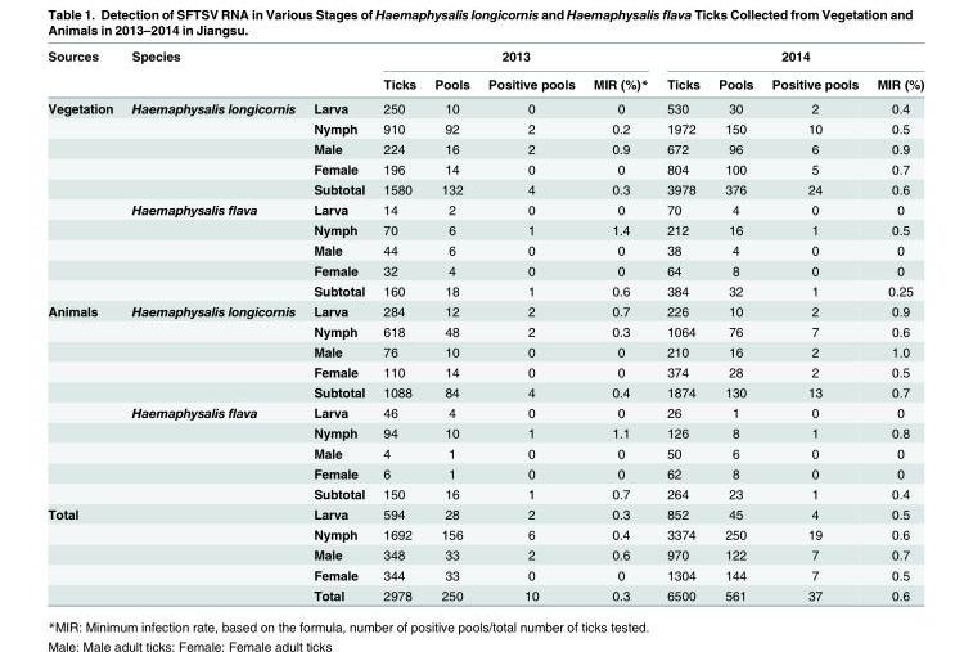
<table><thead><tr><td rowspan="2">Sources</td><td colspan="2">Species</td><td colspan="4">2013</td><td colspan="4">2014</td></tr><tr><td></td><td></td><td>Ticks</td><td>Pools</td><td>Positive pools</td><td>MIR (%)*</td><td>Ticks</td><td>Pools</td><td>Positive pools</td><td>MIR (%)</td></tr></thead><tbody><tr><td rowspan="10">Vegetation</td><td>Haemaphysalis longicornis</td><td>Larva</td><td>250</td><td>10</td><td>0</td><td>0</td><td>530</td><td>30</td><td>2</td><td>0.4</td></tr><tr><td></td><td>Nymph</td><td>910</td><td>92</td><td>2</td><td>0.2</td><td>1972</td><td>150</td><td>10</td><td>0.5</td></tr><tr><td></td><td>Male</td><td>224</td><td>16</td><td>2</td><td>0.9</td><td>672</td><td>96</td><td>6</td><td>0.9</td></tr><tr><td></td><td>Female</td><td>196</td><td>14</td><td>0</td><td>0</td><td>804</td><td>100</td><td>5</td><td>0.7</td></tr><tr><td></td><td>Subtotal</td><td>1580</td><td>132</td><td>4</td><td>0.3</td><td>3978</td><td>376</td><td>24</td><td>0.6</td></tr><tr><td>Haemaphysalis flava</td><td>Larva</td><td>14</td><td>2</td><td>0</td><td>0</td><td>70</td><td>4</td><td>0</td><td>0</td></tr><tr><td></td><td>Nymph</td><td>70</td><td>6</td><td>1</td><td>1.4</td><td>212</td><td>16</td><td>1</td><td>0.5</td></tr><tr><td></td><td>Male</td><td>44</td><td>6</td><td>0</td><td>0</td><td>38</td><td>4</td><td>0</td><td>0</td></tr><tr><td></td><td>Female</td><td>32</td><td>4</td><td>0</td><td>0</td><td>64</td><td>8</td><td>0</td><td>0</td></tr><tr><td></td><td>Subtotal</td><td>160</td><td>18</td><td>1</td><td>0.6</td><td>384</td><td>32</td><td>1</td><td>0.25</td></tr><tr><td rowspan="10">Animals</td><td>Haemaphysalis longicornis</td><td>Larva</td><td>284</td><td>12</td><td>2</td><td>0.7</td><td>226</td><td>10</td><td>2</td><td>0.9</td></tr><tr><td></td><td>Nymph</td><td>618</td><td>48</td><td>2</td><td>0.3</td><td>1064</td><td>76</td><td>7</td><td>0.6</td></tr><tr><td></td><td>Male</td><td>76</td><td>10</td><td>0</td><td>0</td><td>210</td><td>16</td><td>2</td><td>1.0</td></tr><tr><td></td><td>Female</td><td>110</td><td>14</td><td>0</td><td>0</td><td>374</td><td>28</td><td>2</td><td>0.5</td></tr><tr><td></td><td>Subtotal</td><td>1088</td><td>84</td><td>4</td><td>0.4</td><td>1874</td><td>130</td><td>13</td><td>0.7</td></tr><tr><td>Haemaphysalis flava</td><td>Larva</td><td>46</td><td>4</td><td>0</td><td>0</td><td>26</td><td>1</td><td>0</td><td>0</td></tr><tr><td></td><td>Nymph</td><td>94</td><td>10</td><td>1</td><td>1.1</td><td>126</td><td>8</td><td>1</td><td>0.8</td></tr><tr><td></td><td>Male</td><td>4</td><td>1</td><td>0</td><td>0</td><td>50</td><td>6</td><td>0</td><td>0</td></tr><tr><td></td><td>Female</td><td>6</td><td>1</td><td>0</td><td>0</td><td>62</td><td>8</td><td>0</td><td>0</td></tr><tr><td></td><td>Subtotal</td><td>150</td><td>16</td><td>1</td><td>0.7</td><td>264</td><td>23</td><td>1</td><td>0.4</td></tr><tr><td rowspan="5">Total</td><td></td><td>Larva</td><td>594</td><td>28</td><td>2</td><td>0.3</td><td>852</td><td>45</td><td>4</td><td>0.5</td></tr><tr><td></td><td>Nymph</td><td>1692</td><td>156</td><td>6</td><td>0.4</td><td>3374</td><td>250</td><td>19</td><td>0.6</td></tr><tr><td></td><td>Male</td><td>348</td><td>33</td><td>2</td><td>0.6</td><td>970</td><td>122</td><td>7</td><td>0.7</td></tr><tr><td></td><td>Female</td><td>344</td><td>33</td><td>0</td><td>0</td><td>1304</td><td>144</td><td>7</td><td>0.5</td></tr><tr><td></td><td>Total</td><td>2978</td><td>250</td><td>10</td><td>0.3</td><td>6500</td><td>561</td><td>37</td><td>0.6</td></tr></tbody></table>